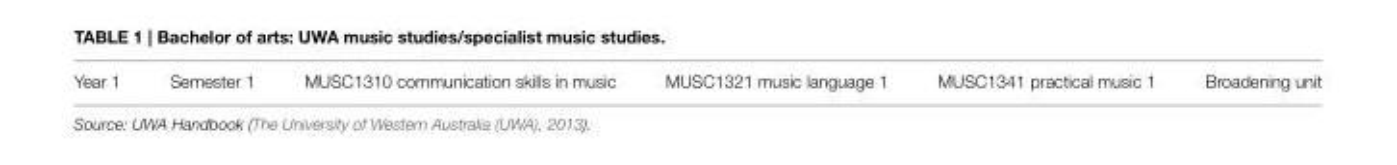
<table><tbody><tr><td>Year 1</td><td>Semester 1</td><td>MUSC1310 communication skills in music</td><td>MUSC1321 music language 1</td><td>MUSC1341 practical music 1</td><td>Broadening unit</td></tr></tbody></table>